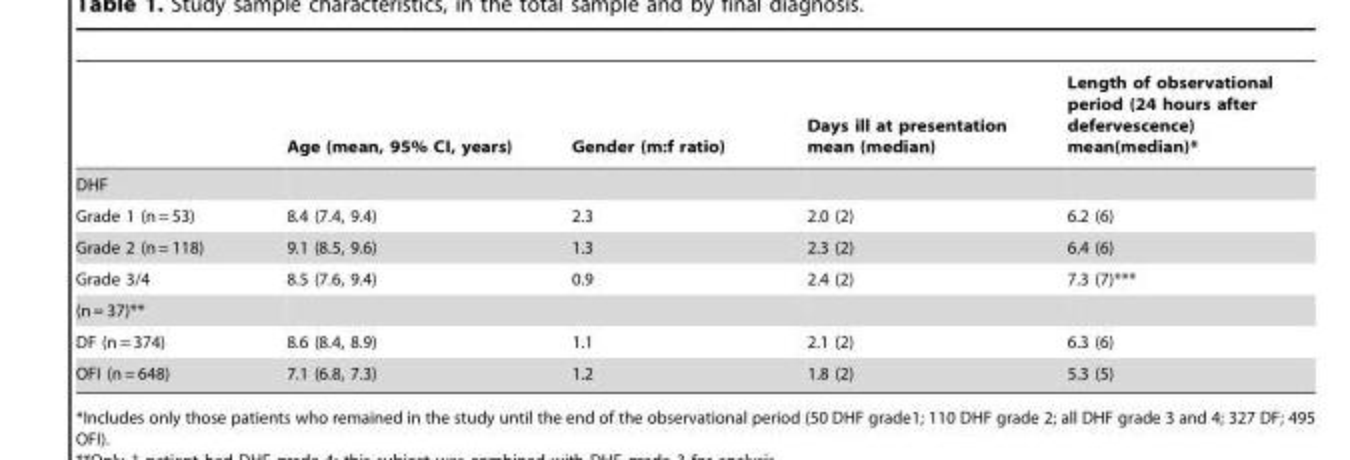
<table><thead><tr><td></td><td>Age (mean, 95% CI, years)</td><td>Gender (m:f ratio)</td><td>Days ill at presentation mean (median)</td><td>Length of observational period (24 hours after defervescence) mean(median)*</td></tr></thead><tbody><tr><td colspan="5">DHF</td></tr><tr><td>Grade 1 (n = 53)</td><td>8.4 (7.4, 9.4)</td><td>2.3</td><td>2.0 (2)</td><td>6.2 (6)</td></tr><tr><td>Grade 2 (n = 118)</td><td>9.1 (8.5, 9.6)</td><td>1.3</td><td>2.3 (2)</td><td>6.4 (6)</td></tr><tr><td>Grade 3/4</td><td>8.5 (7.6, 9.4)</td><td>0.9</td><td>2.4 (2)</td><td>7.3 (7)***</td></tr><tr><td colspan="5">(n = 37)**</td></tr><tr><td>DF (n = 374)</td><td>8.6 (8.4, 8.9)</td><td>1.1</td><td>2.1 (2)</td><td>6.3 (6)</td></tr><tr><td>OFI (n = 648)</td><td>7.1 (6.8, 7.3)</td><td>1.2</td><td>1.8 (2)</td><td>5.3 (5)</td></tr></tbody></table>